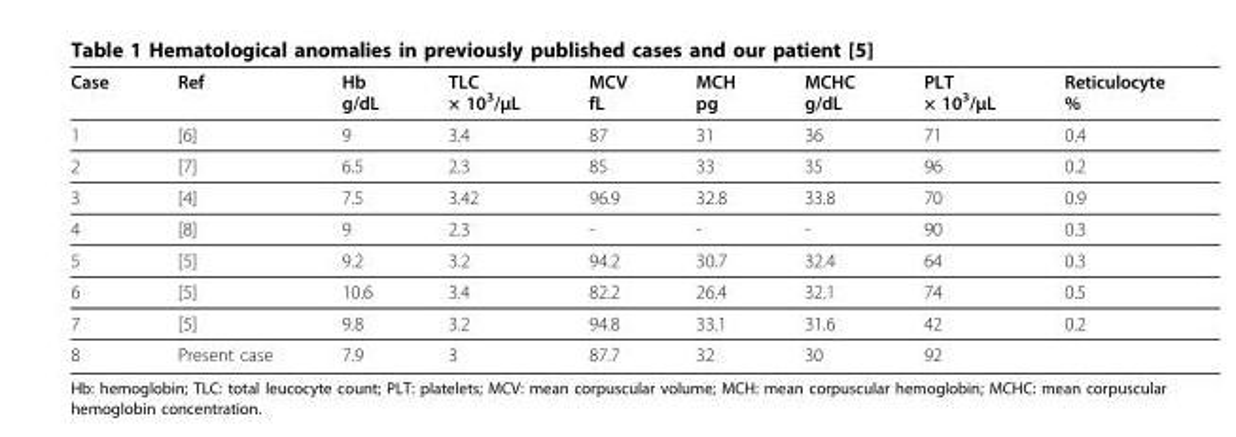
<table><thead><tr><td>Case</td><td>Ref</td><td>Hb g/dL</td><td>TLC × 10<sup>3</sup>/μL</td><td>MCV fL</td><td>MCH pg</td><td>MCHC g/dL</td><td>PLT × 10<sup>3</sup>/μL</td><td>Reticulocyte %</td></tr></thead><tbody><tr><td>1</td><td>[6]</td><td>9</td><td>3.4</td><td>87</td><td>31</td><td>36</td><td>71</td><td>0.4</td></tr><tr><td>2</td><td>[7]</td><td>6.5</td><td>2.3</td><td>85</td><td>33</td><td>35</td><td>96</td><td>0.2</td></tr><tr><td>3</td><td>[4]</td><td>7.5</td><td>3.42</td><td>96.9</td><td>32.8</td><td>33.8</td><td>70</td><td>0.9</td></tr><tr><td>4</td><td>[8]</td><td>9</td><td>2.3</td><td>-</td><td>-</td><td>-</td><td>90</td><td>0.3</td></tr><tr><td>5</td><td>[5]</td><td>9.2</td><td>3.2</td><td>94.2</td><td>30.7</td><td>32.4</td><td>64</td><td>0.3</td></tr><tr><td>6</td><td>[5]</td><td>10.6</td><td>3.4</td><td>82.2</td><td>26.4</td><td>32.1</td><td>74</td><td>0.5</td></tr><tr><td>7</td><td>[5]</td><td>9.8</td><td>3.2</td><td>94.8</td><td>33.1</td><td>31.6</td><td>42</td><td>0.2</td></tr><tr><td>8</td><td>Present case</td><td>7.9</td><td>3</td><td>87.7</td><td>32</td><td>30</td><td>92</td><td></td></tr></tbody></table>